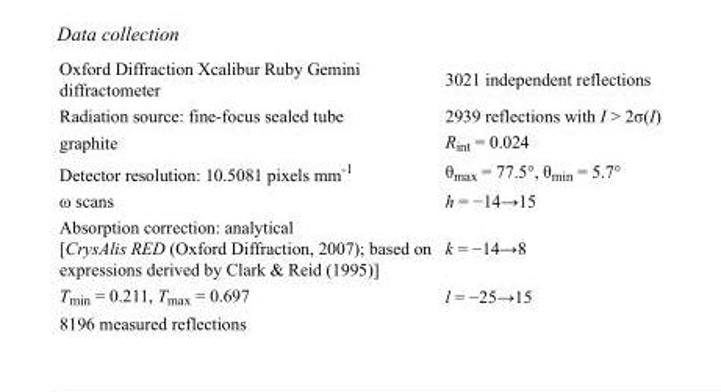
<table><tbody><tr><td>Oxford Diffraction Xcalibur Ruby Gemini diffractometer</td><td>3021 independent reflections</td></tr><tr><td>Radiation source: fine-focus sealed tube</td><td>2939 reflections with I &gt; 2σ(I)</td></tr><tr><td>graphite</td><td>R<sub>int</sub> = 0.024</td></tr><tr><td>Detector resolution: 10.5081 pixels mm<sup>-1</sup></td><td>θ<sub>max</sub> = 77.5°, θ<sub>min</sub> = 5.7°</td></tr><tr><td>ω scans</td><td>h = −14→15</td></tr><tr><td>Absorption correction: analytical [CrysAlis RED (Oxford Diffraction, 2007); based on expressions derived by Clark &amp; Reid (1995)]</td><td>k = −14→8</td></tr><tr><td>T<sub>min</sub> = 0.211, T<sub>max</sub> = 0.697</td><td>l = −25→15</td></tr><tr><td>8196 measured reflections</td><td></td></tr></tbody></table>